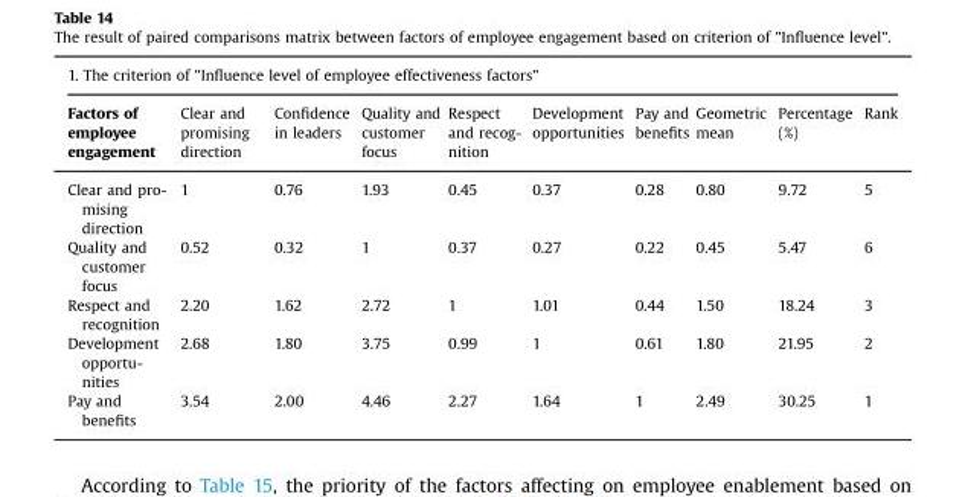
<table><thead><tr><td colspan="10">1. The criterion of &quot;Influence level of employee effectiveness factors&quot;</td></tr><tr><td>Factors of employee engagement</td><td>Clear and promising direction</td><td>Confidence in leaders</td><td>Quality and customer focus</td><td>Respect and recog- nition</td><td>Development opportunities</td><td>Pay and benefits</td><td>Geometric mean</td><td>Percentage (%)</td><td>Rank</td></tr></thead><tbody><tr><td>Clear and pro- mising direction</td><td>1</td><td>0.76</td><td>1.93</td><td>0.45</td><td>0.37</td><td>0.28</td><td>0.80</td><td>9.72</td><td>5</td></tr><tr><td>Quality and customer focus</td><td>0.52</td><td>0.32</td><td>1</td><td>0.37</td><td>0.27</td><td>0.22</td><td>0.45</td><td>5.47</td><td>6</td></tr><tr><td>Respect and recognition</td><td>2.20</td><td>1.62</td><td>2.72</td><td>1</td><td>1.01</td><td>0.44</td><td>1.50</td><td>18.24</td><td>3</td></tr><tr><td>Development opportu- nities</td><td>2.68</td><td>1.80</td><td>3.75</td><td>0.99</td><td>1</td><td>0.61</td><td>1.80</td><td>21.95</td><td>2</td></tr><tr><td>Pay and benefits</td><td>3.54</td><td>2.00</td><td>4.46</td><td>2.27</td><td>1.64</td><td>1</td><td>2.49</td><td>30.25</td><td>1</td></tr></tbody></table>